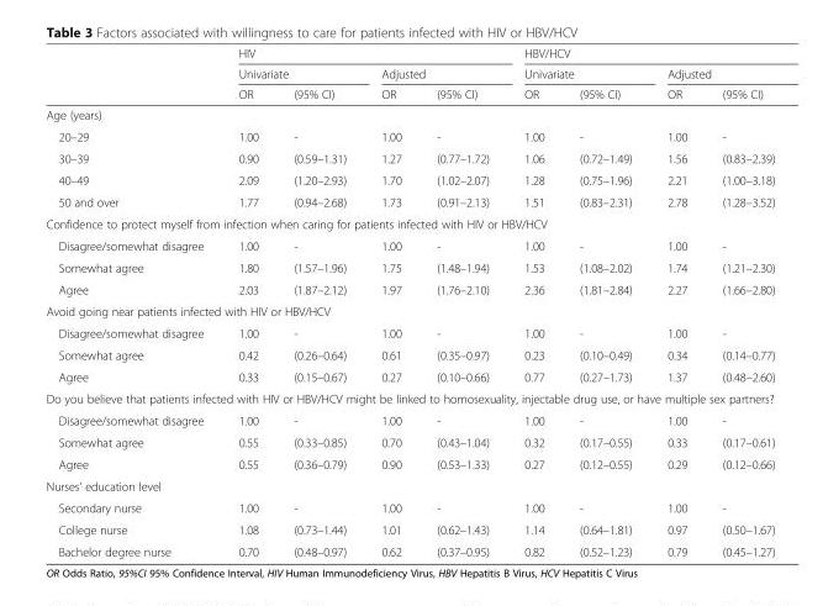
<table><thead><tr><td rowspan="3"></td><td colspan="4">HIV</td><td colspan="4">HBV/HCV</td></tr><tr><td colspan="2">Univariate</td><td colspan="2">Adjusted</td><td colspan="2">Univariate</td><td colspan="2">Adjusted</td></tr><tr><td>OR</td><td>(95% CI)</td><td>OR</td><td>(95% CI)</td><td>OR</td><td>(95% CI)</td><td>OR</td><td>(95% CI)</td></tr></thead><tbody><tr><td colspan="9">Age (years)</td></tr><tr><td>20–29</td><td>1.00</td><td>-</td><td>1.00</td><td>-</td><td>1.00</td><td>-</td><td>1.00</td><td>-</td></tr><tr><td>30–39</td><td>0.90</td><td>(0.59–1.31)</td><td>1.27</td><td>(0.77–1.72)</td><td>1.06</td><td>(0.72–1.49)</td><td>1.56</td><td>(0.83–2.39)</td></tr><tr><td>40–49</td><td>2.09</td><td>(1.20–2.93)</td><td>1.70</td><td>(1.02–2.07)</td><td>1.28</td><td>(0.75–1.96)</td><td>2.21</td><td>(1.00–3.18)</td></tr><tr><td>50 and over</td><td>1.77</td><td>(0.94–2.68)</td><td>1.73</td><td>(0.91–2.13)</td><td>1.51</td><td>(0.83–2.31)</td><td>2.78</td><td>(1.28–3.52)</td></tr><tr><td colspan="9">Confidence to protect myself from infection when caring for patients infected with HIV or HBV/HCV</td></tr><tr><td>Disagree/somewhat disagree</td><td>1.00</td><td>-</td><td>1.00</td><td>-</td><td>1.00</td><td>-</td><td>1.00</td><td>-</td></tr><tr><td>Somewhat agree</td><td>1.80</td><td>(1.57–1.96)</td><td>1.75</td><td>(1.48–1.94)</td><td>1.53</td><td>(1.08–2.02)</td><td>1.74</td><td>(1.21–2.30)</td></tr><tr><td>Agree</td><td>2.03</td><td>(1.87–2.12)</td><td>1.97</td><td>(1.76–2.10)</td><td>2.36</td><td>(1.81–2.84)</td><td>2.27</td><td>(1.66–2.80)</td></tr><tr><td colspan="9">Avoid going near patients infected with HIV or HBV/HCV</td></tr><tr><td>Disagree/somewhat disagree</td><td>1.00</td><td>-</td><td>1.00</td><td>-</td><td>1.00</td><td>-</td><td>1.00</td><td>-</td></tr><tr><td>Somewhat agree</td><td>0.42</td><td>(0.26–0.64)</td><td>0.61</td><td>(0.35–0.97)</td><td>0.23</td><td>(0.10–0.49)</td><td>0.34</td><td>(0.14–0.77)</td></tr><tr><td>Agree</td><td>0.33</td><td>(0.15–0.67)</td><td>0.27</td><td>(0.10–0.66)</td><td>0.77</td><td>(0.27–1.73)</td><td>1.37</td><td>(0.48–2.60)</td></tr><tr><td colspan="9">Do you believe that patients infected with HIV or HBV/HCV might be linked to homosexuality, injectable drug use, or have multiple sex partners?</td></tr><tr><td>Disagree/somewhat disagree</td><td>1.00</td><td>-</td><td>1.00</td><td>-</td><td>1.00</td><td>-</td><td>1.00</td><td>-</td></tr><tr><td>Somewhat agree</td><td>0.55</td><td>(0.33–0.85)</td><td>0.70</td><td>(0.43–1.04)</td><td>0.32</td><td>(0.17–0.55)</td><td>0.33</td><td>(0.17–0.61)</td></tr><tr><td>Agree</td><td>0.55</td><td>(0.36–0.79)</td><td>0.90</td><td>(0.53–1.33)</td><td>0.27</td><td>(0.12–0.55)</td><td>0.29</td><td>(0.12–0.66)</td></tr><tr><td colspan="9">Nurses’ education level</td></tr><tr><td>Secondary nurse</td><td>1.00</td><td>-</td><td>1.00</td><td>-</td><td>1.00</td><td>-</td><td>1.00</td><td>-</td></tr><tr><td>College nurse</td><td>1.08</td><td>(0.73–1.44)</td><td>1.01</td><td>(0.62–1.43)</td><td>1.14</td><td>(0.64–1.81)</td><td>0.97</td><td>(0.50–1.67)</td></tr><tr><td>Bachelor degree nurse</td><td>0.70</td><td>(0.48–0.97)</td><td>0.62</td><td>(0.37–0.95)</td><td>0.82</td><td>(0.52–1.23)</td><td>0.79</td><td>(0.45–1.27)</td></tr></tbody></table>